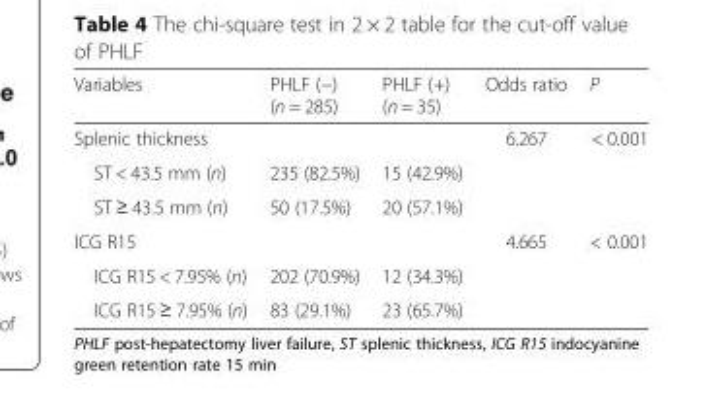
<table><thead><tr><td>Variables</td><td>PHLF (−) (n = 285)</td><td>PHLF (+) (n = 35)</td><td>Odds ratio</td><td>P</td></tr></thead><tbody><tr><td>Splenic thickness</td><td></td><td></td><td>6.267</td><td>&lt; 0.001</td></tr><tr><td>ST &lt; 43.5 mm (n)</td><td>235 (82.5%)</td><td>15 (42.9%)</td><td></td><td></td></tr><tr><td>ST ≥ 43.5 mm (n)</td><td>50 (17.5%)</td><td>20 (57.1%)</td><td></td><td></td></tr><tr><td>ICG R15</td><td></td><td></td><td>4.665</td><td>&lt; 0.001</td></tr><tr><td>ICG R15 &lt; 7.95% (n)</td><td>202 (70.9%)</td><td>12 (34.3%)</td><td></td><td></td></tr><tr><td>ICG R15 ≥ 7.95% (n)</td><td>83 (29.1%)</td><td>23 (65.7%)</td><td></td><td></td></tr></tbody></table>